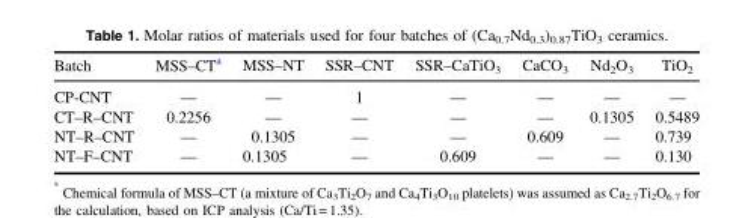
<table><thead><tr><td>Batch</td><td>MSS–CT<sup>a</sup></td><td>MSS–NT</td><td>SSR–CNT</td><td>SSR–CaTiO<sub>3</sub></td><td>CaCO<sub>3</sub></td><td>Nd<sub>2</sub>O<sub>3</sub></td><td>TiO<sub>2</sub></td></tr></thead><tbody><tr><td>CP-CNT</td><td>—</td><td>—</td><td>1</td><td>—</td><td>—</td><td>—</td><td>—</td></tr><tr><td>CT–R–CNT</td><td>0.2256</td><td>—</td><td>—</td><td>—</td><td>—</td><td>0.1305</td><td>0.5489</td></tr><tr><td>NT–R–CNT</td><td>—</td><td>0.1305</td><td>—</td><td>—</td><td>0.609</td><td>—</td><td>0.739</td></tr><tr><td>NT–F–CNT</td><td>—</td><td>0.1305</td><td>—</td><td>0.609</td><td>—</td><td>—</td><td>0.130</td></tr></tbody></table>